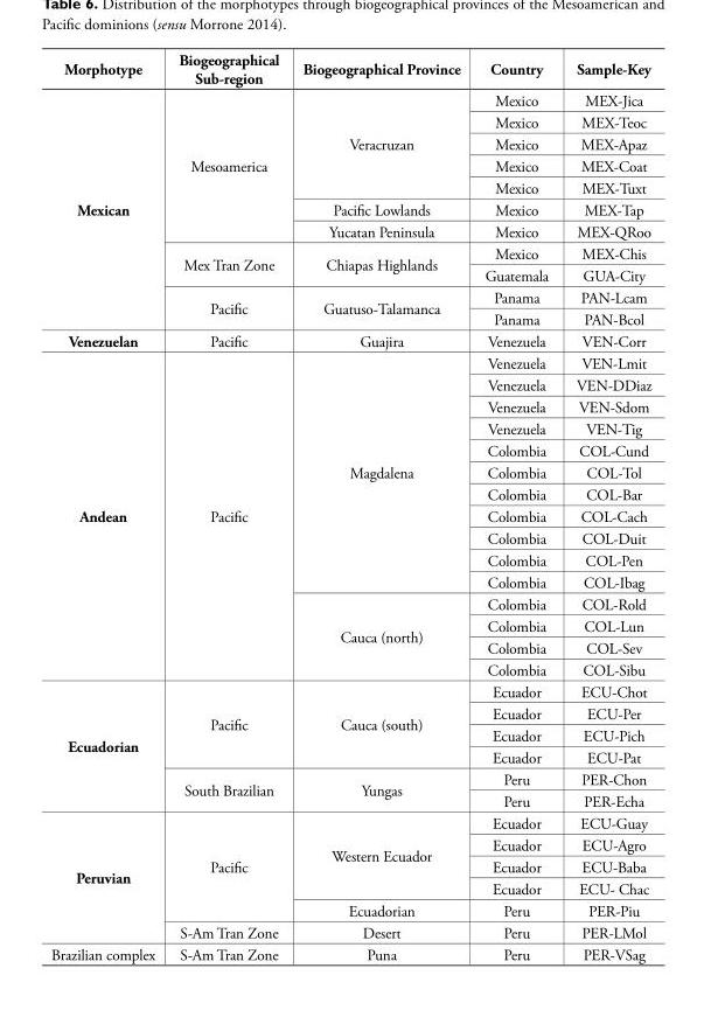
<table><thead><tr><td>Morphotype</td><td>Biogeographical Sub-region</td><td>Biogeographical Province</td><td>Country</td><td>Sample-Key</td></tr></thead><tbody><tr><td rowspan="11">Mexican</td><td rowspan="7">Mesoamerica</td><td rowspan="5">Veracruzan</td><td>Mexico</td><td>MEX-Jica</td></tr><tr><td>Mexico</td><td>MEX-Teoc</td></tr><tr><td>Mexico</td><td>MEX-Apaz</td></tr><tr><td>Mexico</td><td>MEX-Coat</td></tr><tr><td>Mexico</td><td>MEX-Tuxt</td></tr><tr><td>Pacific Lowlands</td><td>Mexico</td><td>MEX-Tap</td></tr><tr><td>Yucatan Peninsula</td><td>Mexico</td><td>MEX-QRoo</td></tr><tr><td rowspan="2">Mex Tran Zone</td><td rowspan="2">Chiapas Highlands</td><td>Mexico</td><td>MEX-Chis</td></tr><tr><td>Guatemala</td><td>GUA-City</td></tr><tr><td rowspan="2">Pacific</td><td rowspan="2">Guatuso-Talamanca</td><td>Panama</td><td>PAN-Lcam</td></tr><tr><td>Panama</td><td>PAN-Bcol</td></tr><tr><td>Venezuelan</td><td>Pacific</td><td>Guajira</td><td>Venezuela</td><td>VEN-Corr</td></tr><tr><td rowspan="15">Andean</td><td rowspan="15">Pacific</td><td rowspan="11">Magdalena</td><td>Venezuela</td><td>VEN-Lmit</td></tr><tr><td>Venezuela</td><td>VEN-DDiaz</td></tr><tr><td>Venezuela</td><td>VEN-Sdom</td></tr><tr><td>Venezuela</td><td>VEN-Tig</td></tr><tr><td>Colombia</td><td>COL-Cund</td></tr><tr><td>Colombia</td><td>COL-Tol</td></tr><tr><td>Colombia</td><td>COL-Bar</td></tr><tr><td>Colombia</td><td>COL-Cach</td></tr><tr><td>Colombia</td><td>COL-Duit</td></tr><tr><td>Colombia</td><td>COL-Pen</td></tr><tr><td>Colombia</td><td>COL-Ibag</td></tr><tr><td rowspan="4">Cauca (north)</td><td>Colombia</td><td>COL-Rold</td></tr><tr><td>Colombia</td><td>COL-Lun</td></tr><tr><td>Colombia</td><td>COL-Sev</td></tr><tr><td>Colombia</td><td>COL-Sibu</td></tr><tr><td rowspan="6">Ecuadorian</td><td rowspan="4">Pacific</td><td rowspan="4">Cauca (south)</td><td>Ecuador</td><td>ECU-Chot</td></tr><tr><td>Ecuador</td><td>ECU-Per</td></tr><tr><td>Ecuador</td><td>ECU-Pich</td></tr><tr><td>Ecuador</td><td>ECU-Pat</td></tr><tr><td rowspan="2">South Brazilian</td><td rowspan="2">Yungas</td><td>Peru</td><td>PER-Chon</td></tr><tr><td>Peru</td><td>PER-Echa</td></tr><tr><td rowspan="6">Peruvian</td><td rowspan="5">Pacific</td><td rowspan="4">Western Ecuador</td><td>Ecuador</td><td>ECU-Guay</td></tr><tr><td>Ecuador</td><td>ECU-Agro</td></tr><tr><td>Ecuador</td><td>ECU-Baba</td></tr><tr><td>Ecuador</td><td>ECU- Chac</td></tr><tr><td>Ecuadorian</td><td>Peru</td><td>PER-Piu</td></tr><tr><td>S-Am Tran Zone</td><td>Desert</td><td>Peru</td><td>PER-LMol</td></tr><tr><td>Brazilian complex</td><td>S-Am Tran Zone</td><td>Puna</td><td>Peru</td><td>PER-VSag</td></tr></tbody></table>